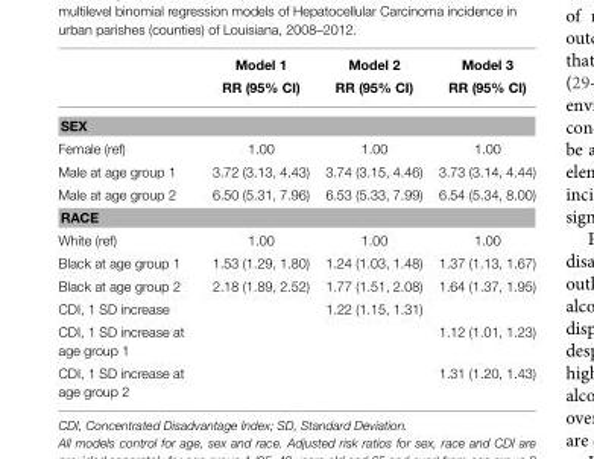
<table><thead><tr><td rowspan="2"></td><td rowspan="2">Model 1 RR (95% CI)</td><td rowspan="2">Model 2 RR (95% CI)</td><td rowspan="2">Model 3 RR (95% CI)</td></tr><tr></tr></thead><tbody><tr><td colspan="4">SEX</td></tr><tr><td>Female (ref)</td><td>1.00</td><td>1.00</td><td>1.00</td></tr><tr><td>Male at age group 1</td><td>3.72 (3.13, 4.43)</td><td>3.74 (3.15, 4.46)</td><td>3.73 (3.14, 4.44)</td></tr><tr><td>Male at age group 2</td><td>6.50 (5.31, 7.96)</td><td>6.53 (5.33, 7.99)</td><td>6.54 (5.34, 8.00)</td></tr><tr><td colspan="4">RACE</td></tr><tr><td>White (ref)</td><td>1.00</td><td>1.00</td><td>1.00</td></tr><tr><td>Black at age group 1</td><td>1.53 (1.29, 1.80)</td><td>1.24 (1.03, 1.48)</td><td>1.37 (1.13, 1.67)</td></tr><tr><td>Black at age group 2</td><td>2.18 (1.89, 2.52)</td><td>1.77 (1.51, 2.08)</td><td>1.64 (1.37, 1.95)</td></tr><tr><td>CDI, 1 SD increase</td><td></td><td>1.22 (1.15, 1.31)</td><td></td></tr><tr><td>CDI, 1 SD increase at age group 1</td><td></td><td></td><td>1.12 (1.01, 1.23)</td></tr><tr><td>CDI, 1 SD increase at age group 2</td><td></td><td></td><td>1.31 (1.20, 1.43)</td></tr></tbody></table>